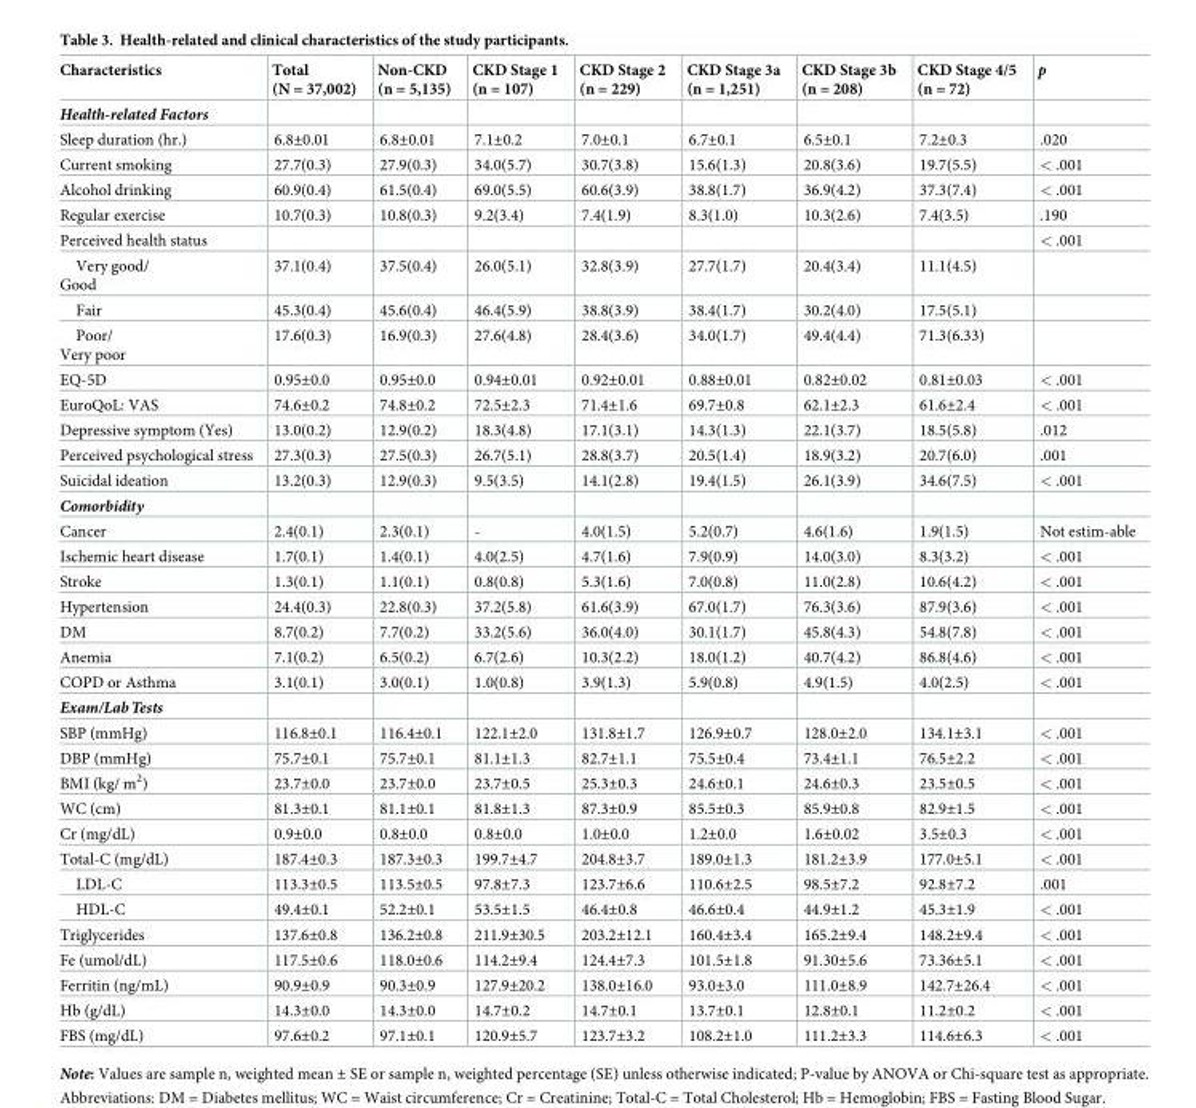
<table><thead><tr><td>Characteristics</td><td>Total (N = 37,002)</td><td>Non-CKD (n = 5,135)</td><td>CKD Stage 1 (n = 107)</td><td>CKD Stage 2 (n = 229)</td><td>CKD Stage 3a (n = 1,251)</td><td>CKD Stage 3b (n = 208)</td><td>CKD Stage 4/5 (n = 72)</td><td>p</td></tr></thead><tbody><tr><td colspan="9">Health-related Factors</td></tr><tr><td>Sleep duration (hr.)</td><td>6.8±0.01</td><td>6.8±0.01</td><td>7.1±0.2</td><td>7.0±0.1</td><td>6.7±0.1</td><td>6.5±0.1</td><td>7.2±0.3</td><td>.020</td></tr><tr><td>Current smoking</td><td>27.7(0.3)</td><td>27.9(0.3)</td><td>34.0(5.7)</td><td>30.7(3.8)</td><td>15.6(1.3)</td><td>20.8(3.6)</td><td>19.7(5.5)</td><td>&lt; .001</td></tr><tr><td>Alcohol drinking</td><td>60.9(0.4)</td><td>61.5(0.4)</td><td>69.0(5.5)</td><td>60.6(3.9)</td><td>38.8(1.7)</td><td>36.9(4.2)</td><td>37.3(7.4)</td><td>&lt; .001</td></tr><tr><td>Regular exercise</td><td>10.7(0.3)</td><td>10.8(0.3)</td><td>9.2(3.4)</td><td>7.4(1.9)</td><td>8.3(1.0)</td><td>10.3(2.6)</td><td>7.4(3.5)</td><td>.190</td></tr><tr><td>Perceived health status</td><td></td><td></td><td></td><td></td><td></td><td></td><td></td><td>&lt; .001</td></tr><tr><td>Very good/ Good</td><td>37.1(0.4)</td><td>37.5(0.4)</td><td>26.0(5.1)</td><td>32.8(3.9)</td><td>27.7(1.7)</td><td>20.4(3.4)</td><td>11.1(4.5)</td><td></td></tr><tr><td>Fair</td><td>45.3(0.4)</td><td>45.6(0.4)</td><td>46.4(5.9)</td><td>38.8(3.9)</td><td>38.4(1.7)</td><td>30.2(4.0)</td><td>17.5(5.1)</td><td></td></tr><tr><td>Poor/ Very poor</td><td>17.6(0.3)</td><td>16.9(0.3)</td><td>27.6(4.8)</td><td>28.4(3.6)</td><td>34.0(1.7)</td><td>49.4(4.4)</td><td>71.3(6.33)</td><td></td></tr><tr><td>EQ-5D</td><td>0.95±0.0</td><td>0.95±0.0</td><td>0.94±0.01</td><td>0.92±0.01</td><td>0.88±0.01</td><td>0.82±0.02</td><td>0.81±0.03</td><td>&lt; .001</td></tr><tr><td>EuroQoL: VAS</td><td>74.6±0.2</td><td>74.8±0.2</td><td>72.5±2.3</td><td>71.4±1.6</td><td>69.7±0.8</td><td>62.1±2.3</td><td>61.6±2.4</td><td>&lt; .001</td></tr><tr><td>Depressive symptom (Yes)</td><td>13.0(0.2)</td><td>12.9(0.2)</td><td>18.3(4.8)</td><td>17.1(3.1)</td><td>14.3(1.3)</td><td>22.1(3.7)</td><td>18.5(5.8)</td><td>.012</td></tr><tr><td>Perceived psychological stress</td><td>27.3(0.3)</td><td>27.5(0.3)</td><td>26.7(5.1)</td><td>28.8(3.7)</td><td>20.5(1.4)</td><td>18.9(3.2)</td><td>20.7(6.0)</td><td>.001</td></tr><tr><td>Suicidal ideation</td><td>13.2(0.3)</td><td>12.9(0.3)</td><td>9.5(3.5)</td><td>14.1(2.8)</td><td>19.4(1.5)</td><td>26.1(3.9)</td><td>34.6(7.5)</td><td>&lt; .001</td></tr><tr><td colspan="9">Comorbidity</td></tr><tr><td>Cancer</td><td>2.4(0.1)</td><td>2.3(0.1)</td><td>-</td><td>4.0(1.5)</td><td>5.2(0.7)</td><td>4.6(1.6)</td><td>1.9(1.5)</td><td>Not estim-able</td></tr><tr><td>Ischemic heart disease</td><td>1.7(0.1)</td><td>1.4(0.1)</td><td>4.0(2.5)</td><td>4.7(1.6)</td><td>7.9(0.9)</td><td>14.0(3.0)</td><td>8.3(3.2)</td><td>&lt; .001</td></tr><tr><td>Stroke</td><td>1.3(0.1)</td><td>1.1(0.1)</td><td>0.8(0.8)</td><td>5.3(1.6)</td><td>7.0(0.8)</td><td>11.0(2.8)</td><td>10.6(4.2)</td><td>&lt; .001</td></tr><tr><td>Hypertension</td><td>24.4(0.3)</td><td>22.8(0.3)</td><td>37.2(5.8)</td><td>61.6(3.9)</td><td>67.0(1.7)</td><td>76.3(3.6)</td><td>87.9(3.6)</td><td>&lt; .001</td></tr><tr><td>DM</td><td>8.7(0.2)</td><td>7.7(0.2)</td><td>33.2(5.6)</td><td>36.0(4.0)</td><td>30.1(1.7)</td><td>45.8(4.3)</td><td>54.8(7.8)</td><td>&lt; .001</td></tr><tr><td>Anemia</td><td>7.1(0.2)</td><td>6.5(0.2)</td><td>6.7(2.6)</td><td>10.3(2.2)</td><td>18.0(1.2)</td><td>40.7(4.2)</td><td>86.8(4.6)</td><td>&lt; .001</td></tr><tr><td>COPD or Asthma</td><td>3.1(0.1)</td><td>3.0(0.1)</td><td>1.0(0.8)</td><td>3.9(1.3)</td><td>5.9(0.8)</td><td>4.9(1.5)</td><td>4.0(2.5)</td><td>&lt; .001</td></tr><tr><td colspan="9">Exam/Lab Tests</td></tr><tr><td>SBP (mmHg)</td><td>116.8±0.1</td><td>116.4±0.1</td><td>122.1±2.0</td><td>131.8±1.7</td><td>126.9±0.7</td><td>128.0±2.0</td><td>134.1±3.1</td><td>&lt; .001</td></tr><tr><td>DBP (mmHg)</td><td>75.7±0.1</td><td>75.7±0.1</td><td>81.1±1.3</td><td>82.7±1.1</td><td>75.5±0.4</td><td>73.4±1.1</td><td>76.5±2.2</td><td>&lt; .001</td></tr><tr><td>BMI (kg/ m<sup>2</sup>)</td><td>23.7±0.0</td><td>23.7±0.0</td><td>23.7±0.5</td><td>25.3±0.3</td><td>24.6±0.1</td><td>24.6±0.3</td><td>23.5±0.5</td><td>&lt; .001</td></tr><tr><td>WC (cm)</td><td>81.3±0.1</td><td>81.1±0.1</td><td>81.8±1.3</td><td>87.3±0.9</td><td>85.5±0.3</td><td>85.9±0.8</td><td>82.9±1.5</td><td>&lt; .001</td></tr><tr><td>Cr (mg/dL)</td><td>0.9±0.0</td><td>0.8±0.0</td><td>0.8±0.0</td><td>1.0±0.0</td><td>1.2±0.0</td><td>1.6±0.02</td><td>3.5±0.3</td><td>&lt; .001</td></tr><tr><td>Total-C (mg/dL)</td><td>187.4±0.3</td><td>187.3±0.3</td><td>199.7±4.7</td><td>204.8±3.7</td><td>189.0±1.3</td><td>181.2±3.9</td><td>177.0±5.1</td><td>&lt; .001</td></tr><tr><td>LDL-C</td><td>113.3±0.5</td><td>113.5±0.5</td><td>97.8±7.3</td><td>123.7±6.6</td><td>110.6±2.5</td><td>98.5±7.2</td><td>92.8±7.2</td><td>.001</td></tr><tr><td>HDL-C</td><td>49.4±0.1</td><td>52.2±0.1</td><td>53.5±1.5</td><td>46.4±0.8</td><td>46.6±0.4</td><td>44.9±1.2</td><td>45.3±1.9</td><td>&lt; .001</td></tr><tr><td>Triglycerides</td><td>137.6±0.8</td><td>136.2±0.8</td><td>211.9±30.5</td><td>203.2±12.1</td><td>160.4±3.4</td><td>165.2±9.4</td><td>148.2±9.4</td><td>&lt; .001</td></tr><tr><td>Fe (umol/dL)</td><td>117.5±0.6</td><td>118.0±0.6</td><td>114.2±9.4</td><td>124.4±7.3</td><td>101.5±1.8</td><td>91.30±5.6</td><td>73.36±5.1</td><td>&lt; .001</td></tr><tr><td>Ferritin (ng/mL)</td><td>90.9±0.9</td><td>90.3±0.9</td><td>127.9±20.2</td><td>138.0±16.0</td><td>93.0±3.0</td><td>111.0±8.9</td><td>142.7±26.4</td><td>&lt; .001</td></tr><tr><td>Hb (g/dL)</td><td>14.3±0.0</td><td>14.3±0.0</td><td>14.7±0.2</td><td>14.7±0.1</td><td>13.7±0.1</td><td>12.8±0.1</td><td>11.2±0.2</td><td>&lt; .001</td></tr><tr><td>FBS (mg/dL)</td><td>97.6±0.2</td><td>97.1±0.1</td><td>120.9±5.7</td><td>123.7±3.2</td><td>108.2±1.0</td><td>111.2±3.3</td><td>114.6±6.3</td><td>&lt; .001</td></tr></tbody></table>